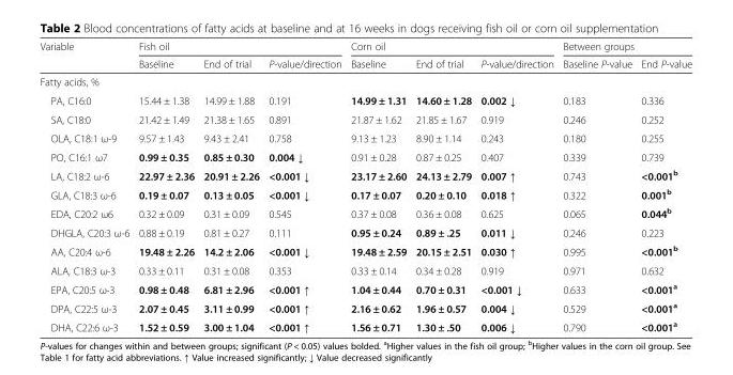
<table><thead><tr><td rowspan="2">Variable</td><td colspan="3">Fish oil</td><td colspan="3">Corn oil</td><td colspan="2">Between groups</td></tr><tr><td>Baseline</td><td>End of trial</td><td>P-value/direction</td><td>Baseline</td><td>End of trial</td><td>P-value/direction</td><td>Baseline P-value</td><td>End P-value</td></tr></thead><tbody><tr><td colspan="9">Fatty acids, %</td></tr><tr><td>PA, C16:0</td><td>15.44 ± 1.38</td><td>14.99 ± 1.88</td><td>0.191</td><td>14.99 ± 1.31</td><td>14.60 ± 1.28</td><td>0.002 ↓</td><td>0.183</td><td>0.336</td></tr><tr><td>SA, C18:0</td><td>21.42 ± 1.49</td><td>21.38 ± 1.65</td><td>0.891</td><td>21.87 ± 1.62</td><td>21.85 ± 1.67</td><td>0.919</td><td>0.246</td><td>0.252</td></tr><tr><td>OLA, C18:1 ω-9</td><td>9.57 ± 1.43</td><td>9.43 ± 2.41</td><td>0.758</td><td>9.13 ± 1.23</td><td>8.90 ± 1.14</td><td>0.243</td><td>0.180</td><td>0.255</td></tr><tr><td>PO, C16:1 ω7</td><td>0.99 ± 0.35</td><td>0.85 ± 0.30</td><td>0.004 ↓</td><td>0.91 ± 0.28</td><td>0.87 ± 0.25</td><td>0.407</td><td>0.339</td><td>0.739</td></tr><tr><td>LA, C18:2 ω-6</td><td>22.97 ± 2.36</td><td>20.91 ± 2.26</td><td>&lt;0.001 ↓</td><td>23.17 ± 2.60</td><td>24.13 ± 2.79</td><td>0.007 ↑</td><td>0.743</td><td>&lt;0.001<sup>b</sup></td></tr><tr><td>GLA, C18:3 ω-6</td><td>0.19 ± 0.07</td><td>0.13 ± 0.05</td><td>&lt;0.001 ↓</td><td>0.17 ± 0.07</td><td>0.20 ± 0.10</td><td>0.018 ↑</td><td>0.322</td><td>0.001<sup>b</sup></td></tr><tr><td>EDA, C20:2 ω6</td><td>0.32 ± 0.09</td><td>0.31 ± 0.09</td><td>0.545</td><td>0.37 ± 0.08</td><td>0.36 ± 0.08</td><td>0.625</td><td>0.065</td><td>0.044<sup>b</sup></td></tr><tr><td>DHGLA, C20:3 ω-6</td><td>0.88 ± 0.19</td><td>0.81 ± 0.27</td><td>0.111</td><td>0.95 ± 0.24</td><td>0.89 ± .25</td><td>0.011 ↓</td><td>0.246</td><td>0.223</td></tr><tr><td>AA, C20:4 ω-6</td><td>19.48 ± 2.26</td><td>14.2 ± 2.06</td><td>&lt;0.001 ↓</td><td>19.48 ± 2.59</td><td>20.15 ± 2.51</td><td>0.030 ↑</td><td>0.995</td><td>&lt;0.001<sup>b</sup></td></tr><tr><td>ALA, C18:3 ω-3</td><td>0.33 ± 0.11</td><td>0.31 ± 0.08</td><td>0.353</td><td>0.33 ± 0.14</td><td>0.34 ± 0.28</td><td>0.919</td><td>0.971</td><td>0.632</td></tr><tr><td>EPA, C20:5 ω-3</td><td>0.98 ± 0.48</td><td>6.81 ± 2.96</td><td>&lt;0.001 ↑</td><td>1.04 ± 0.44</td><td>0.70 ± 0.31</td><td>&lt;0.001 ↓</td><td>0.633</td><td>&lt;0.001<sup>a</sup></td></tr><tr><td>DPA, C22:5 ω-3</td><td>2.07 ± 0.45</td><td>3.11 ± 0.99</td><td>&lt;0.001 ↑</td><td>2.16 ± 0.62</td><td>1.96 ± 0.57</td><td>0.004 ↓</td><td>0.529</td><td>&lt;0.001<sup>a</sup></td></tr><tr><td>DHA, C22:6 ω-3</td><td>1.52 ± 0.59</td><td>3.00 ± 1.04</td><td>&lt;0.001 ↑</td><td>1.56 ± 0.71</td><td>1.30 ± .50</td><td>0.006 ↓</td><td>0.790</td><td>&lt;0.001<sup>a</sup></td></tr></tbody></table>